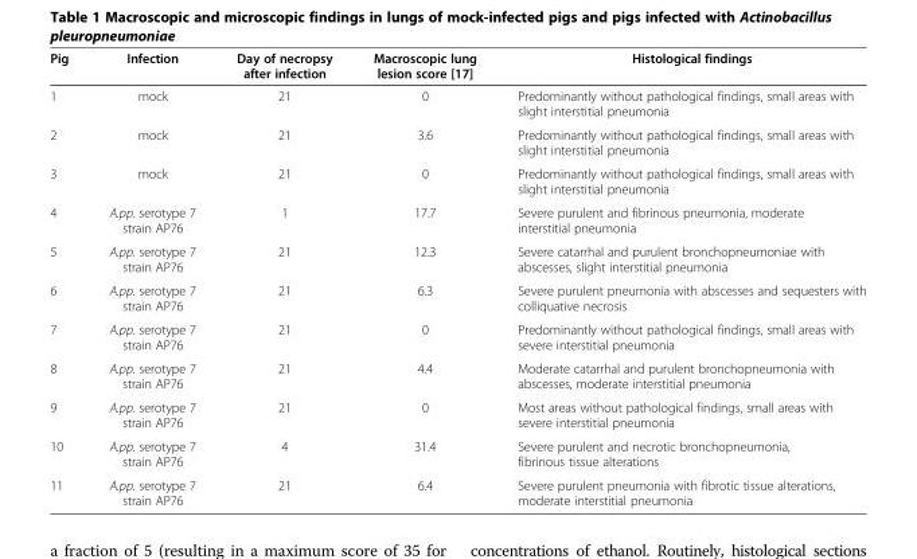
<table><thead><tr><td>Pig</td><td>Infection</td><td>Day of necropsy after infection</td><td>Macroscopic lung lesion score [17]</td><td>Histological findings</td></tr></thead><tbody><tr><td>1</td><td>mock</td><td>21</td><td>0</td><td>Predominantly without pathological findings, small areas with slight interstitial pneumonia</td></tr><tr><td>2</td><td>mock</td><td>21</td><td>3.6</td><td>Predominantly without pathological findings, small areas with slight interstitial pneumonia</td></tr><tr><td>3</td><td>mock</td><td>21</td><td>0</td><td>Predominantly without pathological findings, small areas with slight interstitial pneumonia</td></tr><tr><td>4</td><td>A.pp. serotype 7 strain AP76</td><td>1</td><td>17.7</td><td>Severe purulent and fibrinous pneumonia, moderate interstitial pneumonia</td></tr><tr><td>5</td><td>A.pp. serotype 7 strain AP76</td><td>21</td><td>12.3</td><td>Severe catarrhal and purulent bronchopneumoniae with abscesses, slight interstitial pneumonia</td></tr><tr><td>6</td><td>A.pp. serotype 7 strain AP76</td><td>21</td><td>6.3</td><td>Severe purulent pneumonia with abscesses and sequesters with colliquative necrosis</td></tr><tr><td>7</td><td>A.pp. serotype 7 strain AP76</td><td>21</td><td>0</td><td>Predominantly without pathological findings, small areas with severe interstitial pneumonia</td></tr><tr><td>8</td><td>A.pp. serotype 7 strain AP76</td><td>21</td><td>4.4</td><td>Moderate catarrhal and purulent bronchopneumonia with abscesses, moderate interstitial pneumonia</td></tr><tr><td>9</td><td>A.pp. serotype 7 strain AP76</td><td>21</td><td>0</td><td>Most areas without pathological findings, small areas with severe interstitial pneumonia</td></tr><tr><td>10</td><td>A.pp. serotype 7 strain AP76</td><td>4</td><td>31.4</td><td>Severe purulent and necrotic bronchopneumonia, fibrinous tissue alterations</td></tr><tr><td>11</td><td>A.pp. serotype 7 strain AP76</td><td>21</td><td>6.4</td><td>Severe purulent pneumonia with fibrotic tissue alterations, moderate interstitial pneumonia</td></tr></tbody></table>